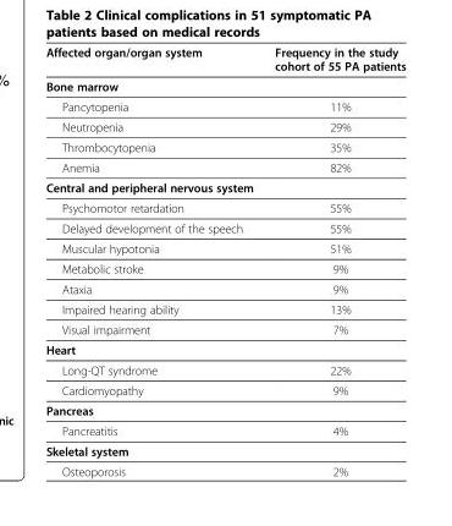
<table><thead><tr><td>Affected organ/organ system</td><td>Frequency in the study cohort of 55 PA patients</td></tr></thead><tbody><tr><td colspan="2">Bone marrow</td></tr><tr><td>Pancytopenia</td><td>11%</td></tr><tr><td>Neutropenia</td><td>29%</td></tr><tr><td>Thrombocytopenia</td><td>35%</td></tr><tr><td>Anemia</td><td>82%</td></tr><tr><td colspan="2">Central and peripheral nervous system</td></tr><tr><td>Psychomotor retardation</td><td>55%</td></tr><tr><td>Delayed development of the speech</td><td>55%</td></tr><tr><td>Muscular hypotonia</td><td>51%</td></tr><tr><td>Metabolic stroke</td><td>9%</td></tr><tr><td>Ataxia</td><td>9%</td></tr><tr><td>Impaired hearing ability</td><td>13%</td></tr><tr><td>Visual impairment</td><td>7%</td></tr><tr><td colspan="2">Heart</td></tr><tr><td>Long-QT syndrome</td><td>22%</td></tr><tr><td>Cardiomyopathy</td><td>9%</td></tr><tr><td colspan="2">Pancreas</td></tr><tr><td>Pancreatitis</td><td>4%</td></tr><tr><td colspan="2">Skeletal system</td></tr><tr><td>Osteoporosis</td><td>2%</td></tr></tbody></table>